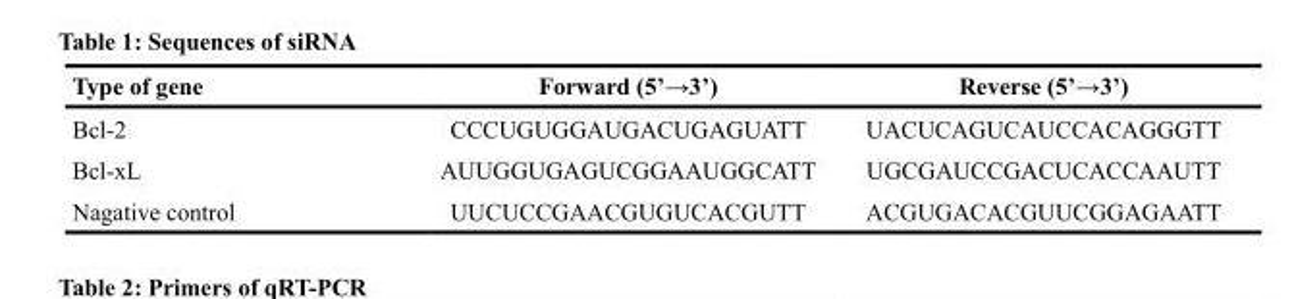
<table><thead><tr><td>Type of gene</td><td>Forward (5’→3’)</td><td>Reverse (5’→3’)</td></tr></thead><tbody><tr><td>Bcl-2</td><td>CCCUGUGGAUGACUGAGUATT</td><td>UACUCAGUCAUCCACAGGGTT</td></tr><tr><td>Bcl-xL</td><td>AUUGGUGAGUCGGAAUGGCATT</td><td>UGCGAUCCGACUCACCAAUTT</td></tr><tr><td>Nagative control</td><td>UUCUCCGAACGUGUCACGUTT</td><td>ACGUGACACGUUCGGAGAATT</td></tr></tbody></table>